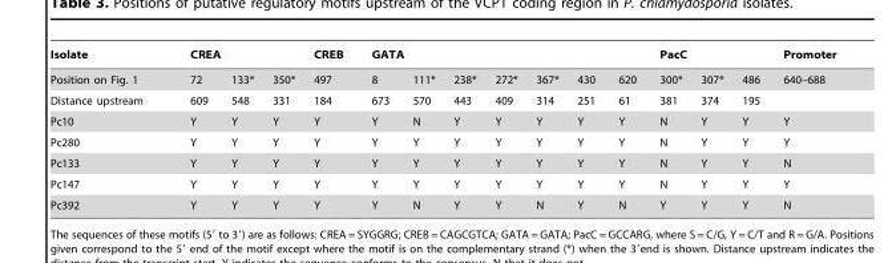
<table><thead><tr><td rowspan="2">Isolate Position on Fig. 1</td><td colspan="3">CREA</td><td rowspan="2">CREB 497</td><td colspan="7">GATA</td><td colspan="3">PacC</td><td rowspan="2">Promoter 640–688</td></tr><tr><td>72</td><td>133*</td><td>350*</td><td>8</td><td>111*</td><td>238*</td><td>272*</td><td>367*</td><td>430</td><td>620</td><td>300*</td><td>307*</td><td>486</td></tr></thead><tbody><tr><td>Distance upstream</td><td>609</td><td>548</td><td>331</td><td>184</td><td>673</td><td>570</td><td>443</td><td>409</td><td>314</td><td>251</td><td>61</td><td>381</td><td>374</td><td>195</td><td></td></tr><tr><td>Pc10</td><td>Y</td><td>Y</td><td>Y</td><td>Y</td><td>Y</td><td>N</td><td>Y</td><td>Y</td><td>Y</td><td>Y</td><td>Y</td><td>N</td><td>Y</td><td>Y</td><td>Y</td></tr><tr><td>Pc280</td><td>Y</td><td>Y</td><td>Y</td><td>Y</td><td>Y</td><td>Y</td><td>Y</td><td>Y</td><td>Y</td><td>Y</td><td>Y</td><td>N</td><td>Y</td><td>Y</td><td>Y</td></tr><tr><td>Pc133</td><td>Y</td><td>Y</td><td>Y</td><td>Y</td><td>Y</td><td>Y</td><td>Y</td><td>Y</td><td>Y</td><td>Y</td><td>Y</td><td>N</td><td>Y</td><td>Y</td><td>N</td></tr><tr><td>Pc147</td><td>Y</td><td>Y</td><td>Y</td><td>Y</td><td>Y</td><td>Y</td><td>Y</td><td>Y</td><td>Y</td><td>Y</td><td>Y</td><td>N</td><td>Y</td><td>Y</td><td>Y</td></tr><tr><td>Pc392</td><td>Y</td><td>Y</td><td>Y</td><td>Y</td><td>Y</td><td>N</td><td>Y</td><td>Y</td><td>N</td><td>Y</td><td>N</td><td>Y</td><td>Y</td><td>Y</td><td>N</td></tr></tbody></table>